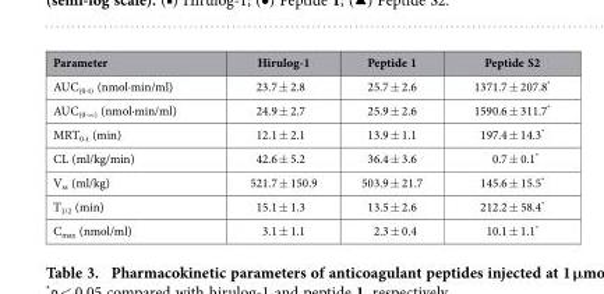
<table><thead><tr><td>Parameter</td><td>Hirulog-1</td><td>Peptide 1</td><td>Peptide S2</td></tr></thead><tbody><tr><td>AUC<sub>(0-t)</sub> (nmol·min/ml)</td><td>23.7 ± 2.8</td><td>25.7 ± 2.6</td><td>1371.7 ± 207.8*</td></tr><tr><td>AUC<sub>(0-∞)</sub> (nmol·min/ml)</td><td>24.9 ± 2.7</td><td>25.9 ± 2.6</td><td>1590.6 ± 311.7*</td></tr><tr><td>MRT<sub>0-t</sub> (min)</td><td>12.1 ± 2.1</td><td>13.9 ± 1.1</td><td>197.4 ± 14.3*</td></tr><tr><td>CL (ml/kg/min)</td><td>42.6 ± 5.2</td><td>36.4 ± 3.6</td><td>0.7 ± 0.1*</td></tr><tr><td>V<sub>ss</sub> (ml/kg)</td><td>521.7 ± 150.9</td><td>503.9 ± 21.7</td><td>145.6 ± 15.5*</td></tr><tr><td>T<sub>1/2</sub> (min)</td><td>15.1 ± 1.3</td><td>13.5 ± 2.6</td><td>212.2 ± 58.4*</td></tr><tr><td>C<sub>max</sub> (nmol/ml)</td><td>3.1 ± 1.1</td><td>2.3 ± 0.4</td><td>10.1 ± 1.1*</td></tr></tbody></table>